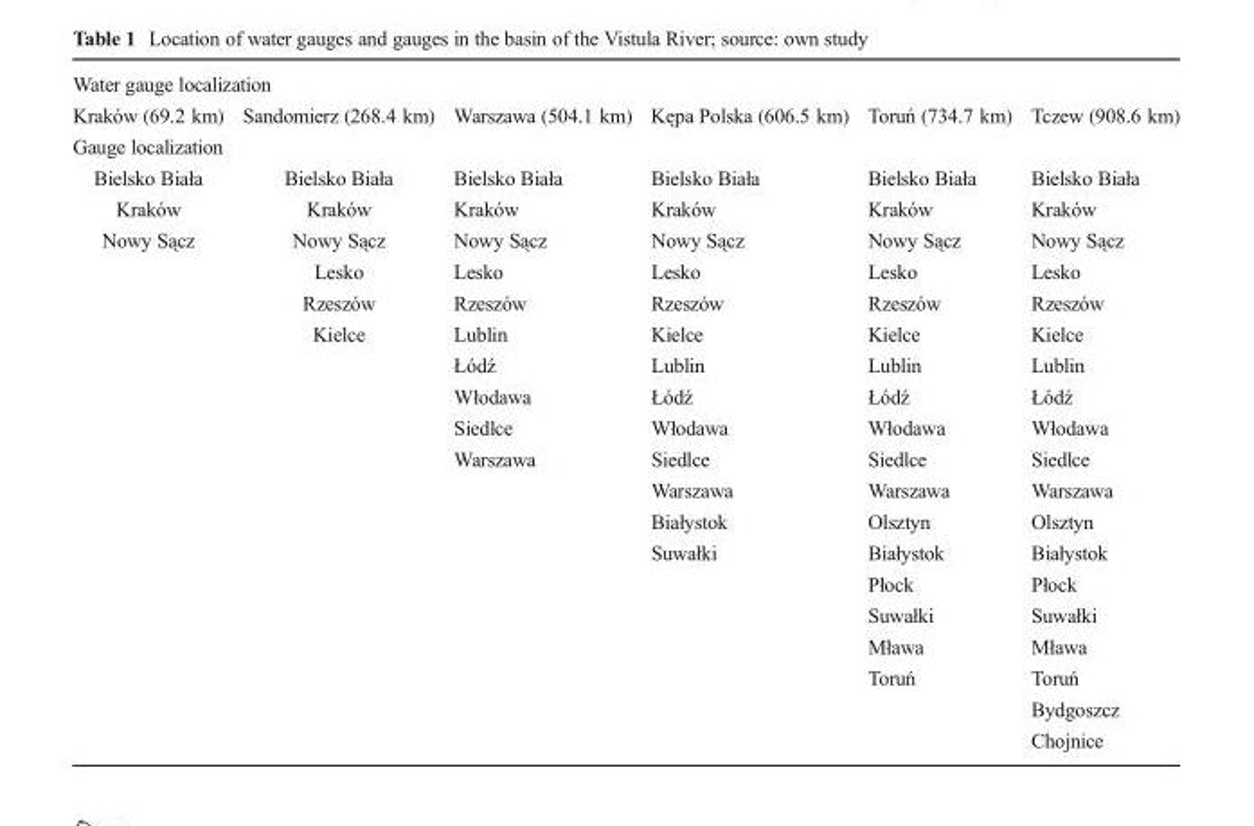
<table><tbody><tr><td colspan="6">Water gauge localization</td></tr><tr><td>Kraków (69.2 km)</td><td>Sandomierz (268.4 km)</td><td>Warszawa (504.1 km)</td><td>Kępa Polska (606.5 km)</td><td>Toruń (734.7 km)</td><td>Tczew (908.6 km)</td></tr><tr><td colspan="6">Gauge localization</td></tr><tr><td>Bielsko Biała</td><td>Bielsko Biała</td><td>Bielsko Biała</td><td>Bielsko Biała</td><td>Bielsko Biała</td><td>Bielsko Biała</td></tr><tr><td>Kraków</td><td>Kraków</td><td>Kraków</td><td>Kraków</td><td>Kraków</td><td>Kraków</td></tr><tr><td rowspan="17">Nowy Sącz</td><td>Nowy Sącz</td><td>Nowy Sącz</td><td>Nowy Sącz</td><td>Nowy Sącz</td><td>Nowy Sącz</td></tr><tr><td>Lesko</td><td>Lesko</td><td>Lesko</td><td>Lesko</td><td>Lesko</td></tr><tr><td>Rzeszów</td><td>Rzeszów</td><td>Rzeszów</td><td>Rzeszów</td><td>Rzeszów</td></tr><tr><td>Kielce</td><td>Lublin</td><td>Kielce</td><td>Kielce</td><td>Kielce</td></tr><tr><td></td><td>Łódź</td><td>Lublin</td><td>Lublin</td><td>Lublin</td></tr><tr><td></td><td>Włodawa</td><td>Łódź</td><td>Łódź</td><td>Łódź</td></tr><tr><td></td><td>Siedlce</td><td>Włodawa</td><td>Włodawa</td><td>Włodawa</td></tr><tr><td></td><td>Warszawa</td><td>Siedlce</td><td>Siedlce</td><td>Siedlce</td></tr><tr><td></td><td></td><td>Warszawa</td><td>Warszawa</td><td>Warszawa</td></tr><tr><td></td><td></td><td>Białystok</td><td>Olsztyn</td><td>Olsztyn</td></tr><tr><td></td><td></td><td>Suwałki</td><td>Białystok</td><td>Białystok</td></tr><tr><td></td><td></td><td></td><td>Płock</td><td>Płock</td></tr><tr><td></td><td></td><td></td><td>Suwałki</td><td>Suwałki</td></tr><tr><td></td><td></td><td></td><td>Mława</td><td>Mława</td></tr><tr><td></td><td></td><td></td><td>Toruń</td><td>Toruń</td></tr><tr><td></td><td></td><td></td><td></td><td>Bydgoszcz</td></tr><tr><td></td><td></td><td></td><td></td><td>Chojnice</td></tr></tbody></table>